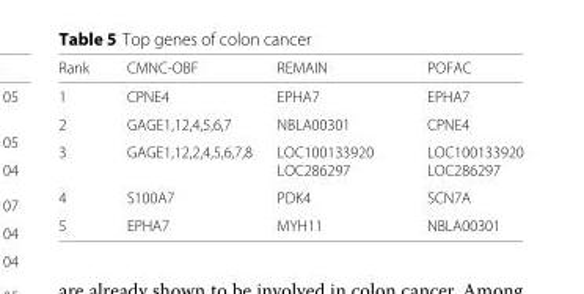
<table><thead><tr><td>Rank</td><td>CMNC-OBF</td><td>REMAIN</td><td>POFAC</td></tr></thead><tbody><tr><td>1</td><td>CPNE4</td><td>EPHA7</td><td>EPHA7</td></tr><tr><td>2</td><td>GAGE1,12,4,5,6,7</td><td>NBLA00301</td><td>CPNE4</td></tr><tr><td>3</td><td>GAGE1,12,2,4,5,6,7,8</td><td>LOC100133920 LOC286297</td><td>LOC100133920 LOC286297</td></tr><tr><td>4</td><td>S100A7</td><td>PDK4</td><td>SCN7A</td></tr><tr><td>5</td><td>EPHA7</td><td>MYH11</td><td>NBLA00301</td></tr></tbody></table>